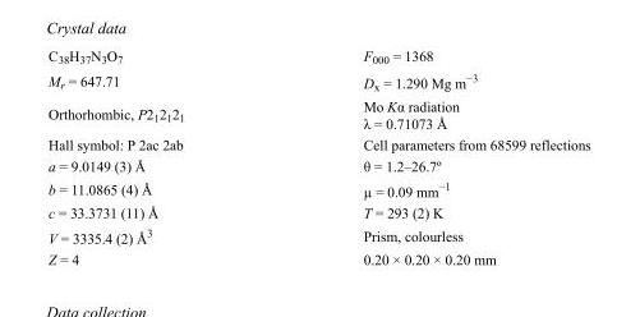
<table><tbody><tr><td>C<sub>38</sub>H<sub>37</sub>N<sub>3</sub>O<sub>7</sub></td><td>F<sub>000</sub> = 1368</td></tr><tr><td>M<sub>r</sub> = 647.71</td><td>D<sub>x</sub> = 1.290 Mg m<sup>−3</sup></td></tr><tr><td>Orthorhombic, P2<sub>1</sub>2<sub>1</sub>2<sub>1</sub></td><td>Mo Kα radiation λ = 0.71073 Å</td></tr><tr><td>Hall symbol: P 2ac 2ab</td><td>Cell parameters from 68599 reflections</td></tr><tr><td>a = 9.0149 (3) Å</td><td>θ = 1.2–26.7º</td></tr><tr><td>b = 11.0865 (4) Å</td><td>µ = 0.09 mm<sup>−1</sup></td></tr><tr><td>c = 33.3731 (11) Å</td><td>T = 293 (2) K</td></tr><tr><td>V = 3335.4 (2) Å<sup>3</sup></td><td>Prism, colourless</td></tr><tr><td>Z = 4</td><td>0.20 × 0.20 × 0.20 mm</td></tr></tbody></table>